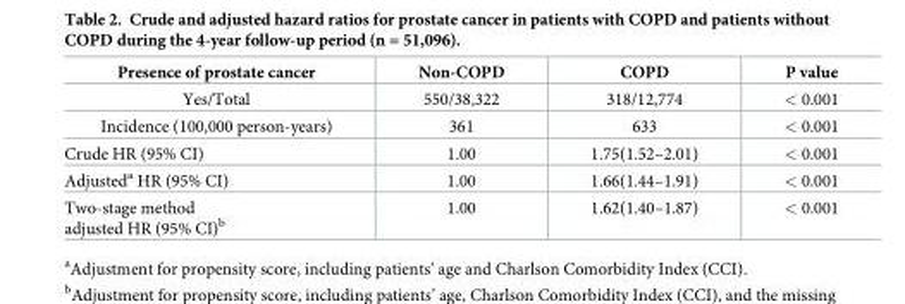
<table><thead><tr><td>Presence of prostate cancer</td><td>Non-COPD</td><td>COPD</td><td>P value</td></tr></thead><tbody><tr><td>Yes/Total</td><td>550/38,322</td><td>318/12,774</td><td>&lt; 0.001</td></tr><tr><td>Incidence (100,000 person-years)</td><td>361</td><td>633</td><td>&lt; 0.001</td></tr><tr><td>Crude HR (95% CI)</td><td>1.00</td><td>1.75(1.52–2.01)</td><td>&lt; 0.001</td></tr><tr><td>Adjusted<sup>a</sup> HR (95% CI)</td><td>1.00</td><td>1.66(1.44–1.91)</td><td>&lt; 0.001</td></tr><tr><td>Two-stage method adjusted HR (95% CI)<sup>b</sup></td><td>1.00</td><td>1.62(1.40–1.87)</td><td>&lt; 0.001</td></tr></tbody></table>